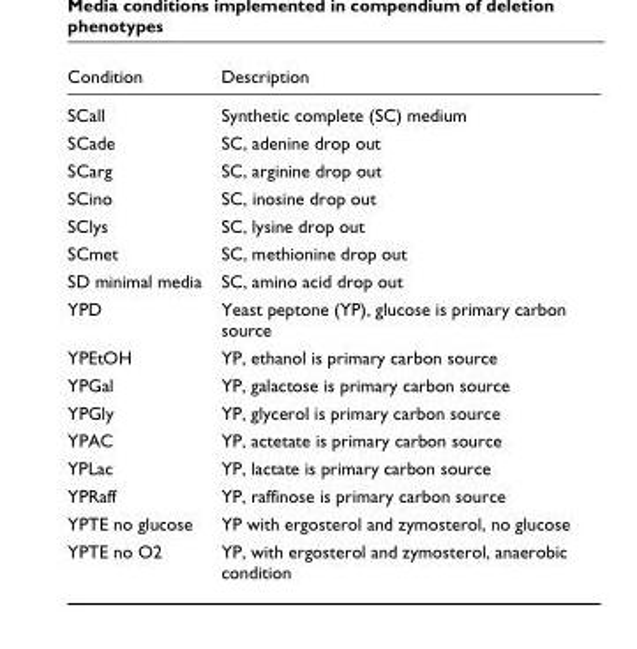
<table><thead><tr><td>Condition</td><td>Description</td></tr></thead><tbody><tr><td>SCall</td><td>Synthetic complete (SC) medium</td></tr><tr><td>SCade</td><td>SC, adenine drop out</td></tr><tr><td>SCarg</td><td>SC, arginine drop out</td></tr><tr><td>SCino</td><td>SC, inosine drop out</td></tr><tr><td>SClys</td><td>SC, lysine drop out</td></tr><tr><td>SCmet</td><td>SC, methionine drop out</td></tr><tr><td>SD minimal media</td><td>SC, amino acid drop out</td></tr><tr><td>YPD</td><td>Yeast peptone (YP), glucose is primary carbon source</td></tr><tr><td>YPEtOH</td><td>YP, ethanol is primary carbon source</td></tr><tr><td>YPGal</td><td>YP, galactose is primary carbon source</td></tr><tr><td>YPGly</td><td>YP, glycerol is primary carbon source</td></tr><tr><td>YPAC</td><td>YP, actetate is primary carbon source</td></tr><tr><td>YPLac</td><td>YP, lactate is primary carbon source</td></tr><tr><td>YPRaff</td><td>YP, raffinose is primary carbon source</td></tr><tr><td>YPTE no glucose</td><td>YP with ergosterol and zymosterol, no glucose</td></tr><tr><td>YPTE no O2</td><td>YP, with ergosterol and zymosterol, anaerobic condition</td></tr></tbody></table>